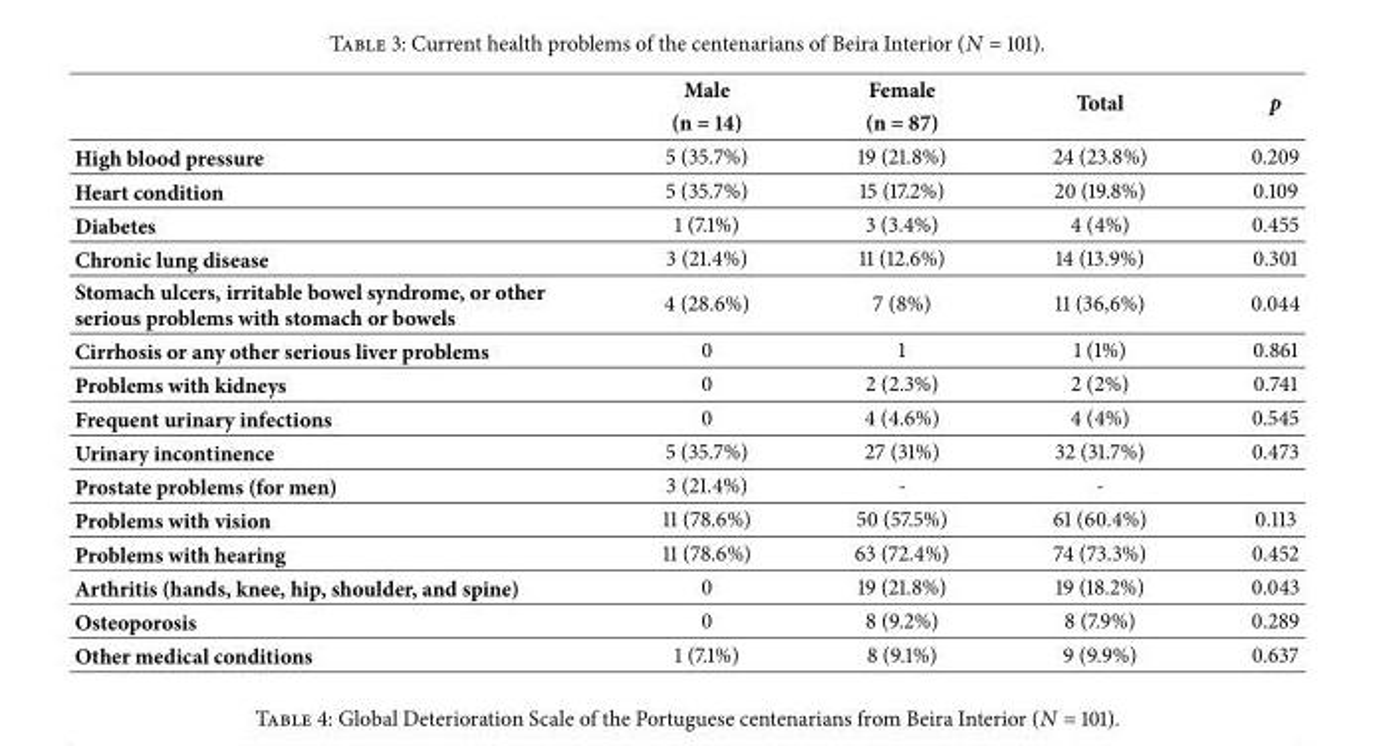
<table><thead><tr><td rowspan="2"></td><td rowspan="2">Male (n = 14)</td><td rowspan="2">Female (n = 87)</td><td rowspan="2">Total</td><td rowspan="2">p</td></tr><tr></tr></thead><tbody><tr><td>High blood pressure</td><td>5 (35.7%)</td><td>19 (21.8%)</td><td>24 (23.8%)</td><td>0.209</td></tr><tr><td>Heart condition</td><td>5 (35.7%)</td><td>15 (17.2%)</td><td>20 (19.8%)</td><td>0.109</td></tr><tr><td>Diabetes</td><td>1 (7.1%)</td><td>3 (3.4%)</td><td>4 (4%)</td><td>0.455</td></tr><tr><td>Chronic lung disease</td><td>3 (21.4%)</td><td>11 (12.6%)</td><td>14 (13.9%)</td><td>0.301</td></tr><tr><td>Stomach ulcers, irritable bowel syndrome, or other serious problems with stomach or bowels</td><td>4 (28.6%)</td><td>7 (8%)</td><td>11 (36,6%)</td><td>0.044</td></tr><tr><td>Cirrhosis or any other serious liver problems</td><td>0</td><td>1</td><td>1 (1%)</td><td>0.861</td></tr><tr><td>Problems with kidneys</td><td>0</td><td>2 (2.3%)</td><td>2 (2%)</td><td>0.741</td></tr><tr><td>Frequent urinary infections</td><td>0</td><td>4 (4.6%)</td><td>4 (4%)</td><td>0.545</td></tr><tr><td>Urinary incontinence</td><td>5 (35.7%)</td><td>27 (31%)</td><td>32 (31.7%)</td><td>0.473</td></tr><tr><td>Prostate problems (for men)</td><td>3 (21.4%)</td><td>-</td><td>-</td><td></td></tr><tr><td>Problems with vision</td><td>11 (78.6%)</td><td>50 (57.5%)</td><td>61 (60.4%)</td><td>0.113</td></tr><tr><td>Problems with hearing</td><td>11 (78.6%)</td><td>63 (72.4%)</td><td>74 (73.3%)</td><td>0.452</td></tr><tr><td>Arthritis (hands, knee, hip, shoulder, and spine)</td><td>0</td><td>19 (21.8%)</td><td>19 (18.2%)</td><td>0.043</td></tr><tr><td>Osteoporosis</td><td>0</td><td>8 (9.2%)</td><td>8 (7.9%)</td><td>0.289</td></tr><tr><td>Other medical conditions</td><td>1 (7.1%)</td><td>8 (9.1%)</td><td>9 (9.9%)</td><td>0.637</td></tr></tbody></table>